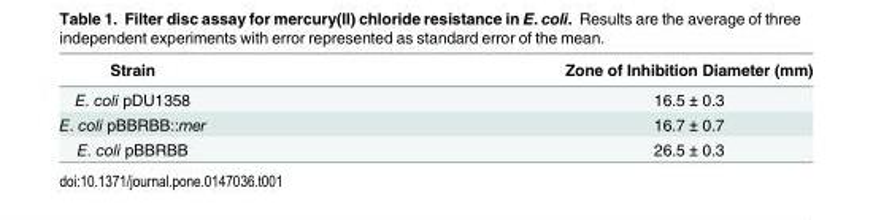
<table><thead><tr><td>Strain</td><td>Zone of Inhibition Diameter (mm)</td></tr></thead><tbody><tr><td>E. coli pDU1358</td><td>16.5 ± 0.3</td></tr><tr><td>E. coli pBBRBB::mer</td><td>16.7 ± 0.7</td></tr><tr><td>E. coli pBBRBB</td><td>26.5 ± 0.3</td></tr></tbody></table>